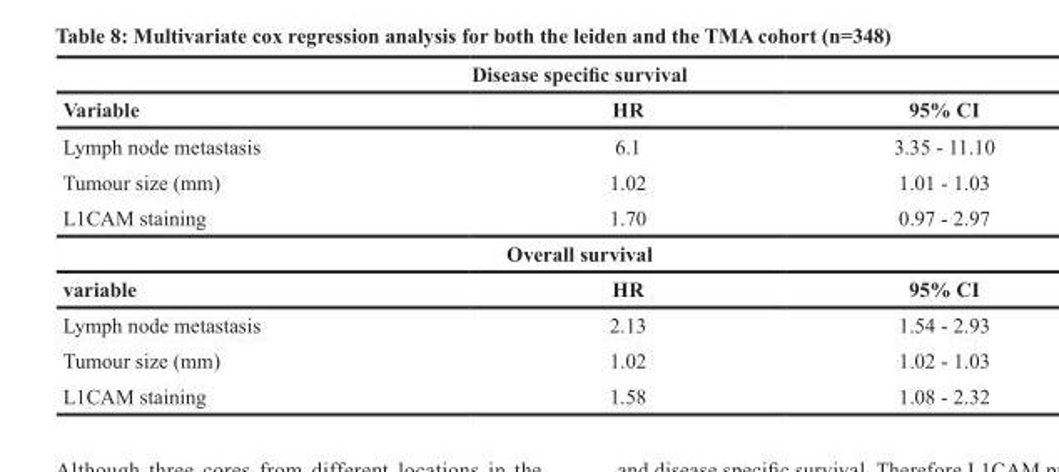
<table><thead><tr><td colspan="3">Disease specific survival</td></tr><tr><td>Variable</td><td>HR</td><td>95% CI</td></tr></thead><tbody><tr><td>Lymph node metastasis</td><td>6.1</td><td>3.35 - 11.10</td></tr><tr><td>Tumour size (mm)</td><td>1.02</td><td>1.01 - 1.03</td></tr><tr><td>L1CAM staining</td><td>1.70</td><td>0.97 - 2.97</td></tr><tr><td colspan="3">Overall survival</td></tr><tr><td>variable</td><td>HR</td><td>95% CI</td></tr><tr><td>Lymph node metastasis</td><td>2.13</td><td>1.54 - 2.93</td></tr><tr><td>Tumour size (mm)</td><td>1.02</td><td>1.02 - 1.03</td></tr><tr><td>L1CAM staining</td><td>1.58</td><td>1.08 - 2.32</td></tr></tbody></table>